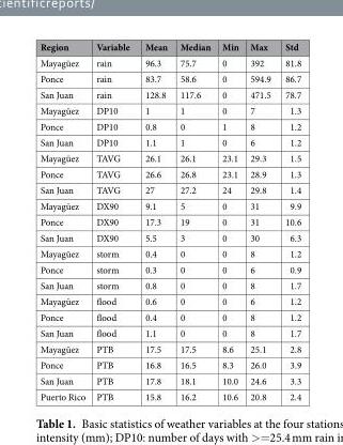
<table><thead><tr><td>Region</td><td>Variable</td><td>Mean</td><td>Median</td><td>Min</td><td>Max</td><td>Std</td></tr></thead><tbody><tr><td>Mayagüez</td><td>rain</td><td>96.3</td><td>75.7</td><td>0</td><td>392</td><td>81.8</td></tr><tr><td>Ponce</td><td>rain</td><td>83.7</td><td>58.6</td><td>0</td><td>594.9</td><td>86.7</td></tr><tr><td>San Juan</td><td>rain</td><td>128.8</td><td>117.6</td><td>0</td><td>471.5</td><td>78.7</td></tr><tr><td>Mayagüez</td><td>DP10</td><td>1</td><td>1</td><td>0</td><td>7</td><td>1.3</td></tr><tr><td>Ponce</td><td>DP10</td><td>0.8</td><td>0</td><td>1</td><td>8</td><td>1.2</td></tr><tr><td>San Juan</td><td>DP10</td><td>1.1</td><td>1</td><td>0</td><td>6</td><td>1.2</td></tr><tr><td>Mayagüez</td><td>TAVG</td><td>26.1</td><td>26.1</td><td>23.1</td><td>29.3</td><td>1.5</td></tr><tr><td>Ponce</td><td>TAVG</td><td>26.6</td><td>26.8</td><td>23.1</td><td>28.9</td><td>1.3</td></tr><tr><td>San Juan</td><td>TAVG</td><td>27</td><td>27.2</td><td>24</td><td>29.8</td><td>1.4</td></tr><tr><td>Mayagüez</td><td>DX90</td><td>9.1</td><td>5</td><td>0</td><td>31</td><td>9.9</td></tr><tr><td>Ponce</td><td>DX90</td><td>17.3</td><td>19</td><td>0</td><td>31</td><td>10.6</td></tr><tr><td>San Juan</td><td>DX90</td><td>5.5</td><td>3</td><td>0</td><td>30</td><td>6.3</td></tr><tr><td>Mayagüez</td><td>storm</td><td>0.4</td><td>0</td><td>0</td><td>8</td><td>1.2</td></tr><tr><td>Ponce</td><td>storm</td><td>0.3</td><td>0</td><td>0</td><td>6</td><td>0.9</td></tr><tr><td>San Juan</td><td>storm</td><td>0.8</td><td>0</td><td>0</td><td>8</td><td>1.7</td></tr><tr><td>Mayagüez</td><td>flood</td><td>0.6</td><td>0</td><td>0</td><td>6</td><td>1.2</td></tr><tr><td>Ponce</td><td>flood</td><td>0.4</td><td>0</td><td>0</td><td>8</td><td>1.2</td></tr><tr><td>San Juan</td><td>flood</td><td>1.1</td><td>0</td><td>0</td><td>8</td><td>1.7</td></tr><tr><td>Mayagüez</td><td>PTB</td><td>17.5</td><td>17.5</td><td>8.6</td><td>25.1</td><td>2.8</td></tr><tr><td>Ponce</td><td>PTB</td><td>16.8</td><td>16.5</td><td>8.3</td><td>26.0</td><td>3.9</td></tr><tr><td>San Juan</td><td>PTB</td><td>17.8</td><td>18.1</td><td>10.0</td><td>24.6</td><td>3.3</td></tr><tr><td>Puerto Rico</td><td>PTB</td><td>15.8</td><td>16.2</td><td>10.6</td><td>20.8</td><td>2.4</td></tr></tbody></table>